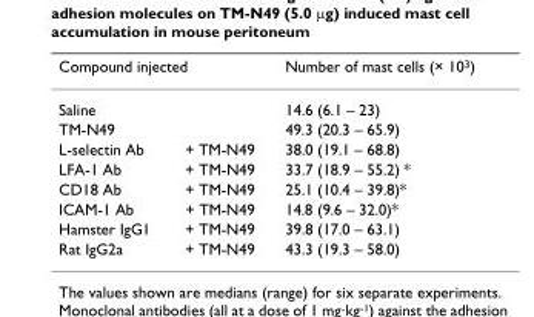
<table><thead><tr><td colspan="2">Compound injected</td><td rowspan="2">Number of mast cells (× 10<sup>3</sup>) 14.6 (6.1 – 23)</td></tr><tr><td>Saline</td><td></td></tr></thead><tbody><tr><td>TM-N49</td><td></td><td>49.3 (20.3 – 65.9)</td></tr><tr><td>L-selectin Ab</td><td>+ TM-N49</td><td>38.0 (19.1 – 68.8)</td></tr><tr><td>LFA-1 Ab</td><td>+ TM-N49</td><td>33.7 (18.9 – 55.2) *</td></tr><tr><td>CD18 Ab</td><td>+ TM-N49</td><td>25.1 (10.4 – 39.8)*</td></tr><tr><td>ICAM-1 Ab</td><td>+ TM-N49</td><td>14.8 (9.6 – 32.0)*</td></tr><tr><td>Hamster IgG1</td><td>+ TM-N49</td><td>39.8 (17.0 – 63.1)</td></tr><tr><td>Rat IgG2a</td><td>+ TM-N49</td><td>43.3 (19.3 – 58.0)</td></tr></tbody></table>